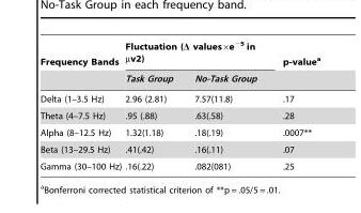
<table><thead><tr><td rowspan="2">Frequency Bands</td><td colspan="2">Fluctuation (Δ values×e<sup>−5</sup> in µv2)</td><td rowspan="2">p-value<sup>a</sup></td></tr><tr><td>Task Group</td><td>No-Task Group</td></tr></thead><tbody><tr><td>Delta (1–3.5 Hz)</td><td>2.96 (2.81)</td><td>7.57(11.8)</td><td>.17</td></tr><tr><td>Theta (4–7.5 Hz)</td><td>.95 (.88)</td><td>.63(.58)</td><td>.28</td></tr><tr><td>Alpha (8–12.5 Hz)</td><td>1.32(1.18)</td><td>.18(.19)</td><td>.0007**</td></tr><tr><td>Beta (13–29.5 Hz)</td><td>.41(.42)</td><td>.16(.11)</td><td>.07</td></tr><tr><td>Gamma (30–100 Hz)</td><td>.16(.22)</td><td>.082(081)</td><td>.25</td></tr></tbody></table>